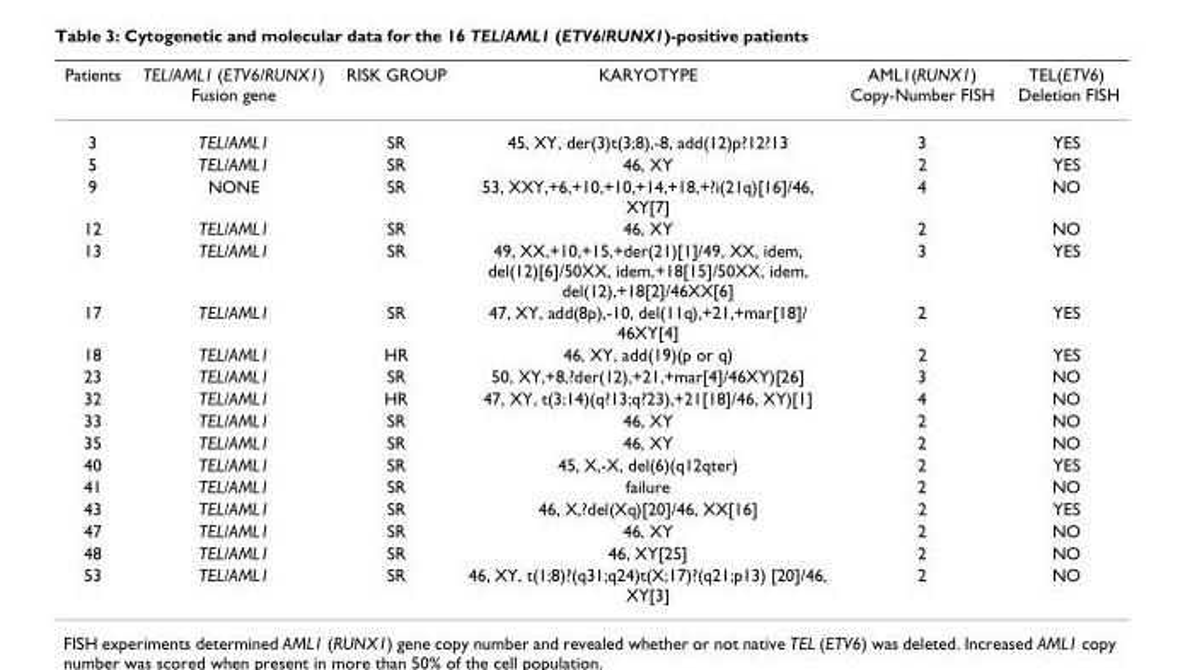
<table><thead><tr><td>Patients</td><td>TEL/AML1 (ETV6/RUNX1) Fusion gene</td><td>RISK GROUP</td><td>KARYOTYPE</td><td>AML1(RUNX1) Copy-Number FISH</td><td>TEL(ETV6) Deletion FISH</td></tr></thead><tbody><tr><td>3</td><td>TEL/AML1</td><td>SR</td><td>45, XY, der(3)t(3;8),-8, add(12)p?12?13</td><td>3</td><td>YES</td></tr><tr><td>5</td><td>TEL/AML1</td><td>SR</td><td>46, XY</td><td>2</td><td>YES</td></tr><tr><td>9</td><td>NONE</td><td>SR</td><td>53, XXY,+6,+10,+10,+14,+18,+?i(21q)[16]/46, XY[7]</td><td>4</td><td>NO</td></tr><tr><td>12</td><td>TEL/AML1</td><td>SR</td><td>46, XY</td><td>2</td><td>NO</td></tr><tr><td>13</td><td>TEL/AML1</td><td>SR</td><td>49, XX,+10,+15,+der(21)[1]/49, XX, idem, del(12)[6]/50XX, idem,+18[15]/50XX, idem, del(12),+18[2]/46XX[6]</td><td>3</td><td>YES</td></tr><tr><td>17</td><td>TEL/AML1</td><td>SR</td><td>47, XY, add(8p),-10, del(11q),+21,+mar[18]/ 46XY[4]</td><td>2</td><td>YES</td></tr><tr><td>18</td><td>TEL/AML1</td><td>HR</td><td>46, XY, add(19)(p or q)</td><td>2</td><td>YES</td></tr><tr><td>23</td><td>TEL/AML1</td><td>SR</td><td>50, XY,+8,?der(12),+21,+mar[4]/46XY)[26]</td><td>3</td><td>NO</td></tr><tr><td>32</td><td>TEL/AML1</td><td>HR</td><td>47, XY, t(3;14)(q?13;q?23),+21[18]/46, XY)[1]</td><td>4</td><td>NO</td></tr><tr><td>33</td><td>TEL/AML1</td><td>SR</td><td>46, XY</td><td>2</td><td>NO</td></tr><tr><td>35</td><td>TEL/AML1</td><td>SR</td><td>46, XY</td><td>2</td><td>NO</td></tr><tr><td>40</td><td>TEL/AML1</td><td>SR</td><td>45, X,-X, del(6)(q12qter)</td><td>2</td><td>YES</td></tr><tr><td>41</td><td>TEL/AML1</td><td>SR</td><td>failure</td><td>2</td><td>NO</td></tr><tr><td>43</td><td>TEL/AML1</td><td>SR</td><td>46, X,?del(Xq)[20]/46, XX[16]</td><td>2</td><td>YES</td></tr><tr><td>47</td><td>TEL/AML1</td><td>SR</td><td>46, XY</td><td>2</td><td>NO</td></tr><tr><td>48</td><td>TEL/AML1</td><td>SR</td><td>46, XY[25]</td><td>2</td><td>NO</td></tr><tr><td>53</td><td>TEL/AML1</td><td>SR</td><td>46, XY, t(1;8)?(q31;q24)t(X;17)?(q21;p13) [20]/46, XY[3]</td><td>2</td><td>NO</td></tr></tbody></table>